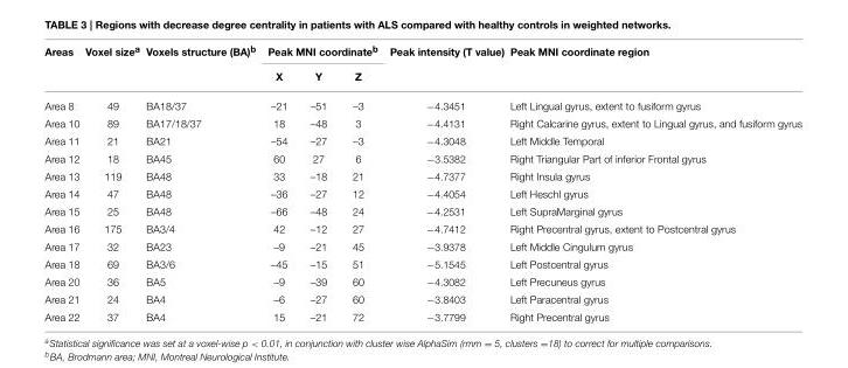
<table><thead><tr><td rowspan="2">Areas</td><td rowspan="2">Voxel size<sup>a</sup></td><td rowspan="2">Voxels structure (BA)<sup>b</sup></td><td colspan="3">Peak MNI coordinate<sup>b</sup></td><td rowspan="2">Peak intensity (T value)</td><td rowspan="2">Peak MNI coordinate region</td></tr><tr><td>X</td><td>Y</td><td>Z</td></tr></thead><tbody><tr><td>Area 8</td><td>49</td><td>BA18/37</td><td>–21</td><td>–51</td><td>–3</td><td>−4.3451</td><td>Left Lingual gyrus, extent to fusiform gyrus</td></tr><tr><td>Area 10</td><td>89</td><td>BA17/18/37</td><td>18</td><td>–48</td><td>3</td><td>−4.4131</td><td>Right Calcarine gyrus, extent to Lingual gyrus, and fusiform gyrus</td></tr><tr><td>Area 11</td><td>21</td><td>BA21</td><td>–54</td><td>–27</td><td>–3</td><td>−4.3048</td><td>Left Middle Temporal</td></tr><tr><td>Area 12</td><td>18</td><td>BA45</td><td>60</td><td>27</td><td>6</td><td>−3.5382</td><td>Right Triangular Part of inferior Frontal gyrus</td></tr><tr><td>Area 13</td><td>119</td><td>BA48</td><td>33</td><td>–18</td><td>21</td><td>−4.7377</td><td>Right Insula gyrus</td></tr><tr><td>Area 14</td><td>47</td><td>BA48</td><td>–36</td><td>–27</td><td>12</td><td>−4.4054</td><td>Left Heschl gyrus</td></tr><tr><td>Area 15</td><td>25</td><td>BA48</td><td>–66</td><td>–48</td><td>24</td><td>−4.2531</td><td>Left SupraMarginal gyrus</td></tr><tr><td>Area 16</td><td>175</td><td>BA3/4</td><td>42</td><td>–12</td><td>27</td><td>−4.7412</td><td>Right Precentral gyrus, extent to Postcentral gyrus</td></tr><tr><td>Area 17</td><td>32</td><td>BA23</td><td>–9</td><td>–21</td><td>45</td><td>−3.9378</td><td>Left Middle Cingulum gyrus</td></tr><tr><td>Area 18</td><td>69</td><td>BA3/6</td><td>–45</td><td>–15</td><td>51</td><td>−5.1545</td><td>Left Postcentral gyrus</td></tr><tr><td>Area 20</td><td>36</td><td>BA5</td><td>–9</td><td>–39</td><td>60</td><td>−4.3082</td><td>Left Precuneus gyrus</td></tr><tr><td>Area 21</td><td>24</td><td>BA4</td><td>–6</td><td>–27</td><td>60</td><td>−3.8403</td><td>Left Paracentral gyrus</td></tr><tr><td>Area 22</td><td>37</td><td>BA4</td><td>15</td><td>–21</td><td>72</td><td>−3.7799</td><td>Right Precentral gyrus</td></tr></tbody></table>